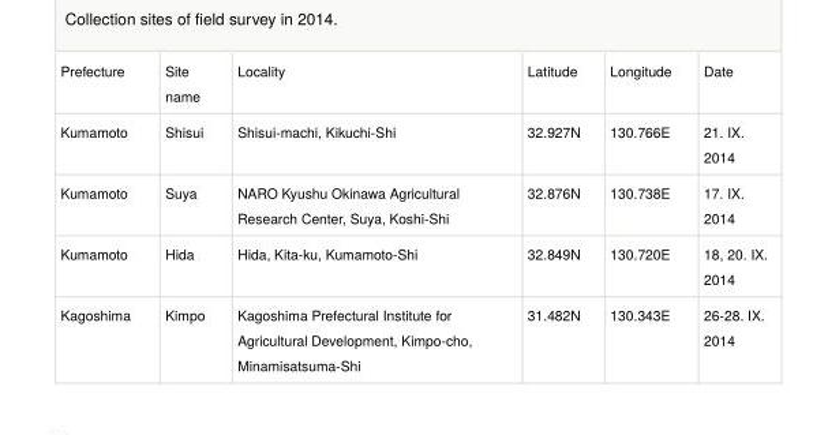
<table><tbody><tr><td>Prefecture</td><td>Site name</td><td>Locality</td><td>Latitude</td><td>Longitude</td><td>Date</td></tr><tr><td>Kumamoto</td><td>Shisui</td><td>Shisui-machi, Kikuchi-Shi</td><td>32.927N</td><td>130.766E</td><td>21. IX. 2014</td></tr><tr><td>Kumamoto</td><td>Suya</td><td>NARO Kyushu Okinawa Agricultural Research Center, Suya, Koshi-Shi</td><td>32.876N</td><td>130.738E</td><td>17. IX. 2014</td></tr><tr><td>Kumamoto</td><td>Hida</td><td>Hida, Kita-ku, Kumamoto-Shi</td><td>32.849N</td><td>130.720E</td><td>18, 20. IX. 2014</td></tr><tr><td>Kagoshima</td><td>Kimpo</td><td>Kagoshima Prefectural Institute for Agricultural Development, Kimpo-cho, Minamisatsuma-Shi</td><td>31.482N</td><td>130.343E</td><td>26-28. IX. 2014</td></tr></tbody></table>